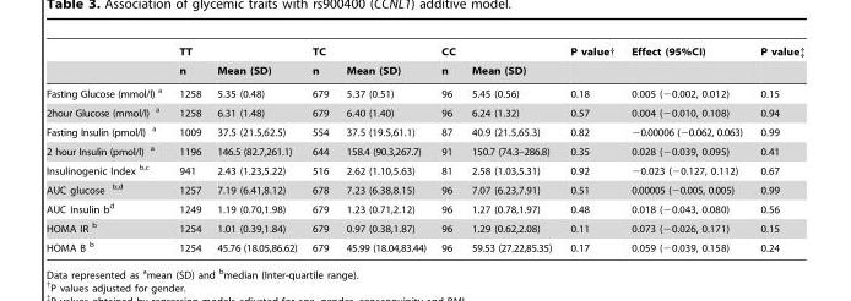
<table><thead><tr><td rowspan="2"></td><td colspan="2">TT</td><td colspan="2">TC</td><td colspan="2">CC</td><td rowspan="2">P value†</td><td rowspan="2">Effect (95%CI)</td><td rowspan="2">P value‡</td></tr><tr><td>n</td><td>Mean (SD)</td><td>n</td><td>Mean (SD)</td><td>n</td><td>Mean (SD)</td></tr></thead><tbody><tr><td>Fasting Glucose (mmol/l) <sup>a</sup></td><td>1258</td><td>5.35 (0.48)</td><td>679</td><td>5.37 (0.51)</td><td>96</td><td>5.45 (0.56)</td><td>0.18</td><td>0.005 (−0.002, 0.012)</td><td>0.15</td></tr><tr><td>2hour Glucose (mmol/l) a</td><td>1258</td><td>6.31 (1.48)</td><td>679</td><td>6.40 (1.40)</td><td>96</td><td>6.24 (1.32)</td><td>0.57</td><td>0.004 (−0.010, 0.108)</td><td>0.94</td></tr><tr><td>Fasting Insulin (pmol/l) a</td><td>1009</td><td>37.5 (21.5,62.5)</td><td>554</td><td>37.5 (19.5,61.1)</td><td>87</td><td>40.9 (21.5,65.3)</td><td>0.82</td><td>−0.00006 (−0.062, 0.063)</td><td>0.99</td></tr><tr><td>2 hour Insulin (pmol/l) a</td><td>1196</td><td>146.5 (82.7,261.1)</td><td>644</td><td>158.4 (90.3,267.7)</td><td>91</td><td>150.7 (74.3–286.8)</td><td>0.35</td><td>0.028 (−0.039, 0.095)</td><td>0.41</td></tr><tr><td>Insulinogenic Index b,c</td><td>941</td><td>2.43 (1.23,5.22)</td><td>516</td><td>2.62 (1.10,5.63)</td><td>81</td><td>2.58 (1.03,5.31)</td><td>0.92</td><td>−0.023 (−0.127, 0.112)</td><td>0.67</td></tr><tr><td>AUC glucose b,<sup>d</sup></td><td>1257</td><td>7.19 (6.41,8.12)</td><td>678</td><td>7.23 (6.38,8.15)</td><td>96</td><td>7.07 (6.23,7.91)</td><td>0.51</td><td>0.00005 (−0.005, 0.005)</td><td>0.99</td></tr><tr><td>AUC Insulin b<sup>d</sup></td><td>1249</td><td>1.19 (0.70,1.98)</td><td>679</td><td>1.23 (0.71,2.12)</td><td>96</td><td>1.27 (0.78,1.97)</td><td>0.48</td><td>0.018 (−0.043, 0.080)</td><td>0.56</td></tr><tr><td>HOMA IR b</td><td>1254</td><td>1.01 (0.39,1.84)</td><td>679</td><td>0.97 (0.38,1.87)</td><td>96</td><td>1.29 (0.62,2.08)</td><td>0.11</td><td>0.073 (−0.026, 0.171)</td><td>0.15</td></tr><tr><td>HOMA B b</td><td>1254</td><td>45.76 (18.05,86.62)</td><td>679</td><td>45.99 (18.04,83.44)</td><td>96</td><td>59.53 (27.22,85.35)</td><td>0.17</td><td>0.059 (−0.039, 0.158)</td><td>0.24</td></tr></tbody></table>